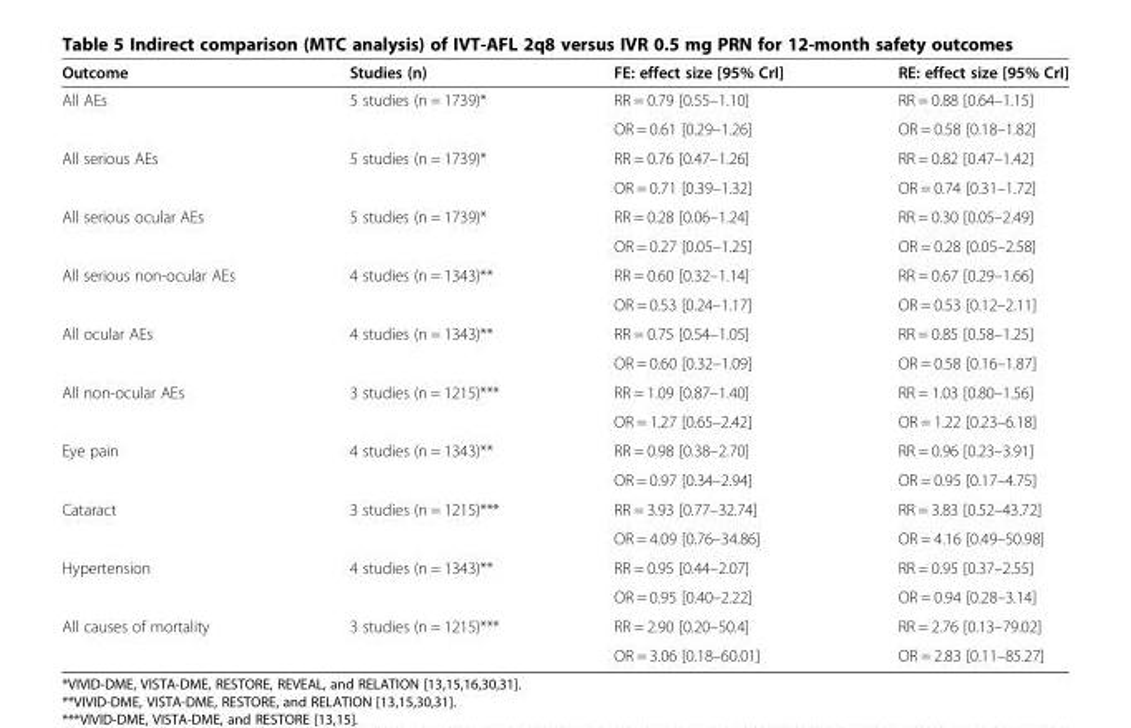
<table><thead><tr><td>Outcome</td><td>Studies (n)</td><td>FE: effect size [95% CrI]</td><td>RE: effect size [95% CrI]</td></tr></thead><tbody><tr><td rowspan="2">All AEs</td><td rowspan="2">5 studies (n = 1739)*</td><td>RR = 0.79 [0.55–1.10]</td><td>RR = 0.88 [0.64–1.15]</td></tr><tr><td>OR = 0.61 [0.29–1.26]</td><td>OR = 0.58 [0.18–1.82]</td></tr><tr><td rowspan="2">All serious AEs</td><td rowspan="2">5 studies (n = 1739)*</td><td>RR = 0.76 [0.47–1.26]</td><td>RR = 0.82 [0.47–1.42]</td></tr><tr><td>OR = 0.71 [0.39–1.32]</td><td>OR = 0.74 [0.31–1.72]</td></tr><tr><td rowspan="2">All serious ocular AEs</td><td rowspan="2">5 studies (n = 1739)*</td><td>RR = 0.28 [0.06–1.24]</td><td>RR = 0.30 [0.05–2.49]</td></tr><tr><td>OR = 0.27 [0.05–1.25]</td><td>OR = 0.28 [0.05–2.58]</td></tr><tr><td rowspan="2">All serious non-ocular AEs</td><td rowspan="2">4 studies (n = 1343)**</td><td>RR = 0.60 [0.32–1.14]</td><td>RR = 0.67 [0.29–1.66]</td></tr><tr><td>OR = 0.53 [0.24–1.17]</td><td>OR = 0.53 [0.12–2.11]</td></tr><tr><td rowspan="2">All ocular AEs</td><td rowspan="2">4 studies (n = 1343)**</td><td>RR = 0.75 [0.54–1.05]</td><td>RR = 0.85 [0.58–1.25]</td></tr><tr><td>OR = 0.60 [0.32–1.09]</td><td>OR = 0.58 [0.16–1.87]</td></tr><tr><td rowspan="2">All non-ocular AEs</td><td rowspan="2">3 studies (n = 1215)***</td><td>RR = 1.09 [0.87–1.40]</td><td>RR = 1.03 [0.80–1.56]</td></tr><tr><td>OR = 1.27 [0.65–2.42]</td><td>OR = 1.22 [0.23–6.18]</td></tr><tr><td rowspan="2">Eye pain</td><td rowspan="2">4 studies (n = 1343)**</td><td>RR = 0.98 [0.38–2.70]</td><td>RR = 0.96 [0.23–3.91]</td></tr><tr><td>OR = 0.97 [0.34–2.94]</td><td>OR = 0.95 [0.17–4.75]</td></tr><tr><td rowspan="2">Cataract</td><td rowspan="2">3 studies (n = 1215)***</td><td>RR = 3.93 [0.77–32.74]</td><td>RR = 3.83 [0.52–43.72]</td></tr><tr><td>OR = 4.09 [0.76–34.86]</td><td>OR = 4.16 [0.49–50.98]</td></tr><tr><td rowspan="2">Hypertension</td><td rowspan="2">4 studies (n = 1343)**</td><td>RR = 0.95 [0.44–2.07]</td><td>RR = 0.95 [0.37–2.55]</td></tr><tr><td>OR = 0.95 [0.40–2.22]</td><td>OR = 0.94 [0.28–3.14]</td></tr><tr><td rowspan="2">All causes of mortality</td><td rowspan="2">3 studies (n = 1215)***</td><td>RR = 2.90 [0.20–50.4]</td><td>RR = 2.76 [0.13–79.02]</td></tr><tr><td>OR = 3.06 [0.18–60.01]</td><td>OR = 2.83 [0.11–85.27]</td></tr></tbody></table>